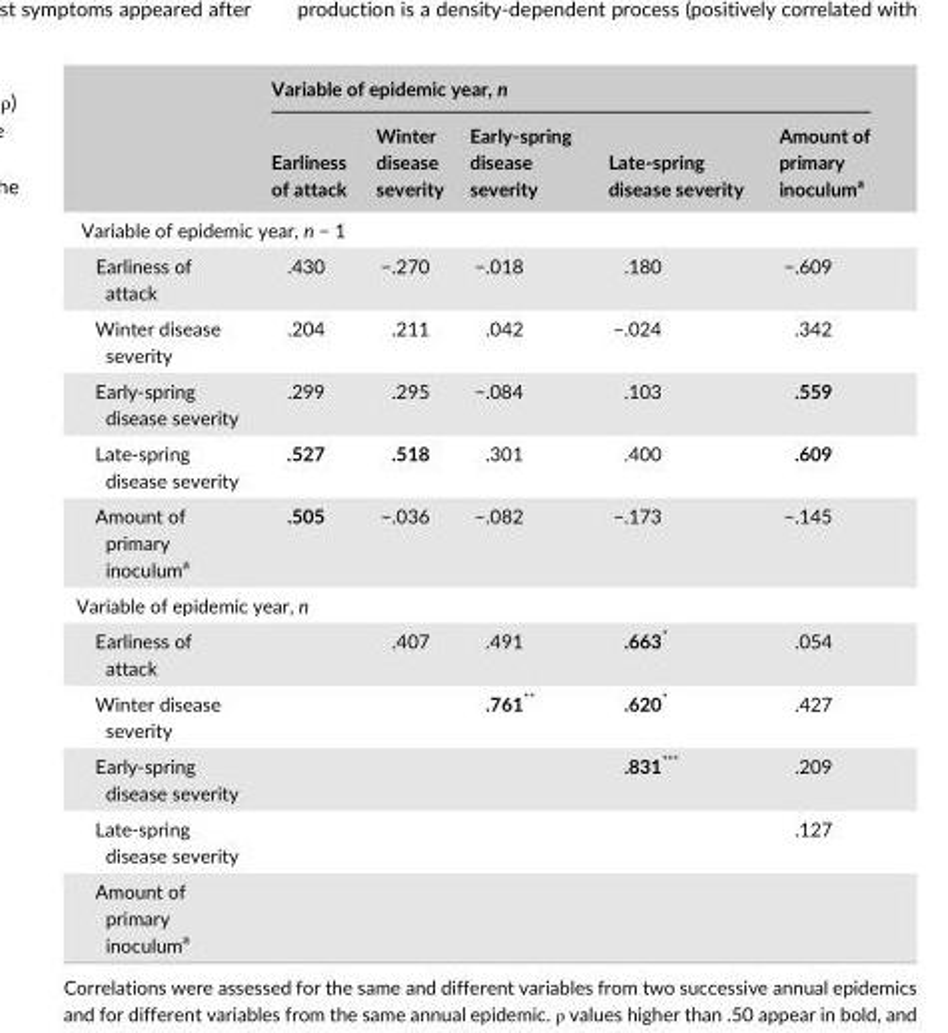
<table><thead><tr><td rowspan="2"></td><td colspan="5">Variable of epidemic year, n</td></tr><tr><td>Earliness of attack</td><td>Winter disease severity</td><td>Early- spring disease severity</td><td>Late- spring disease severity</td><td>Amount of primary inoculum<sup>a</sup></td></tr></thead><tbody><tr><td colspan="6">Variable of epidemic year, n − 1</td></tr><tr><td>Earliness of attack</td><td>.430</td><td>−.270</td><td>−.018</td><td>.180</td><td>−.609</td></tr><tr><td>Winter disease severity</td><td>.204</td><td>.211</td><td>.042</td><td>−.024</td><td>.342</td></tr><tr><td>Early- spring disease severity</td><td>.299</td><td>.295</td><td>−.084</td><td>.103</td><td>.559</td></tr><tr><td>Late- spring disease severity</td><td>.527</td><td>.518</td><td>.301</td><td>.400</td><td>.609</td></tr><tr><td>Amount of primary inoculum<sup>a</sup></td><td>.505</td><td>−.036</td><td>−.082</td><td>−.173</td><td>−.145</td></tr><tr><td colspan="6">Variable of epidemic year, n</td></tr><tr><td>Earliness of attack</td><td></td><td>.407</td><td>.491</td><td>.663*</td><td>.054</td></tr><tr><td>Winter disease severity</td><td></td><td></td><td>.761**</td><td>.620*</td><td>.427</td></tr><tr><td>Early- spring disease severity</td><td></td><td></td><td></td><td>.831***</td><td>.209</td></tr><tr><td>Late- spring disease severity</td><td></td><td></td><td></td><td></td><td>.127</td></tr><tr><td>Amount of primary inoculum<sup>a</sup></td><td></td><td></td><td></td><td></td><td></td></tr></tbody></table>